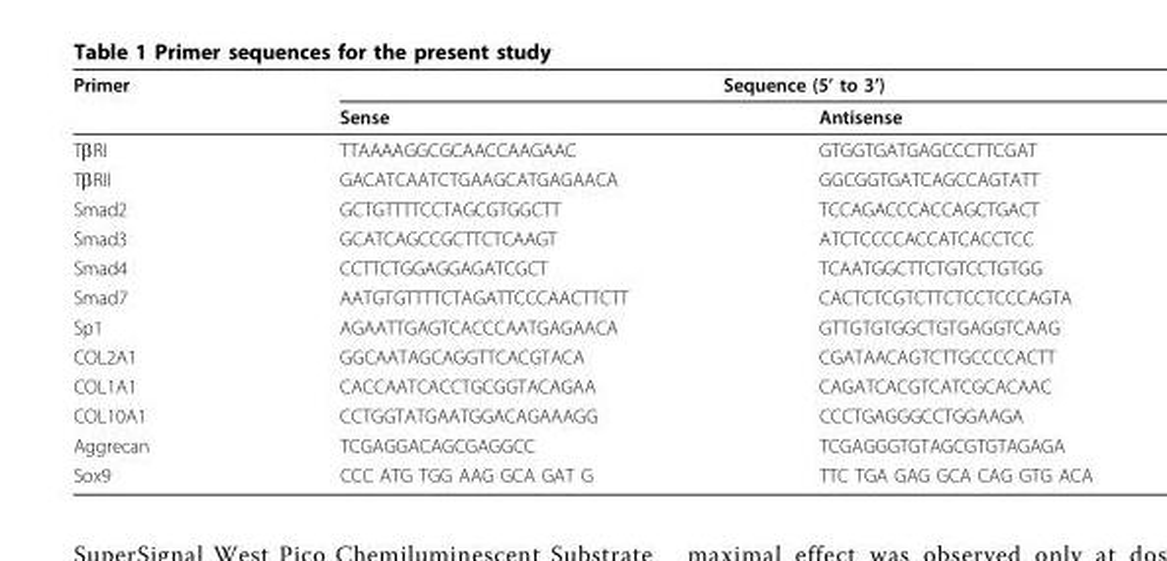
<table><thead><tr><td rowspan="2">Primer</td><td colspan="2">Sequence (5’ to 3’)</td></tr><tr><td>Sense</td><td>Antisense</td></tr></thead><tbody><tr><td>TβRI</td><td>TTAAAAGGCGCAACCAAGAAC</td><td>GTGGTGATGAGCCCTTCGAT</td></tr><tr><td>TβRII</td><td>GACATCAATCTGAAGCATGAGAACA</td><td>GGCGGTGATCAGCCAGTATT</td></tr><tr><td>Smad2</td><td>GCTGTTTTCCTAGCGTGGCTT</td><td>TCCAGACCCACCAGCTGACT</td></tr><tr><td>Smad3</td><td>GCATCAGCCGCTTCTCAAGT</td><td>ATCTCCCCACCATCACCTCC</td></tr><tr><td>Smad4</td><td>CCTTCTGGAGGAGATCGCT</td><td>TCAATGGCTTCTGTCCTGTGG</td></tr><tr><td>Smad7</td><td>AATGTGTTTTCTAGATTCCCAACTTCTT</td><td>CACTCTCGTCTTCTCCTCCCAGTA</td></tr><tr><td>Sp1</td><td>AGAATTGAGTCACCCAATGAGAACA</td><td>GTTGTGTGGCTGTGAGGTCAAG</td></tr><tr><td>COL2A1</td><td>GGCAATAGCAGGTTCACGTACA</td><td>CGATAACAGTCTTGCCCCACTT</td></tr><tr><td>COL1A1</td><td>CACCAATCACCTGCGGTACAGAA</td><td>CAGATCACGTCATCGCACAAC</td></tr><tr><td>COL10A1</td><td>CCTGGTATGAATGGACAGAAAGG</td><td>CCCTGAGGGCCTGGAAGA</td></tr><tr><td>Aggrecan</td><td>TCGAGGACAGCGAGGCC</td><td>TCGAGGGTGTAGCGTGTAGAGA</td></tr><tr><td>Sox9</td><td>CCC ATG TGG AAG GCA GAT G</td><td>TTC TGA GAG GCA CAG GTG ACA</td></tr></tbody></table>